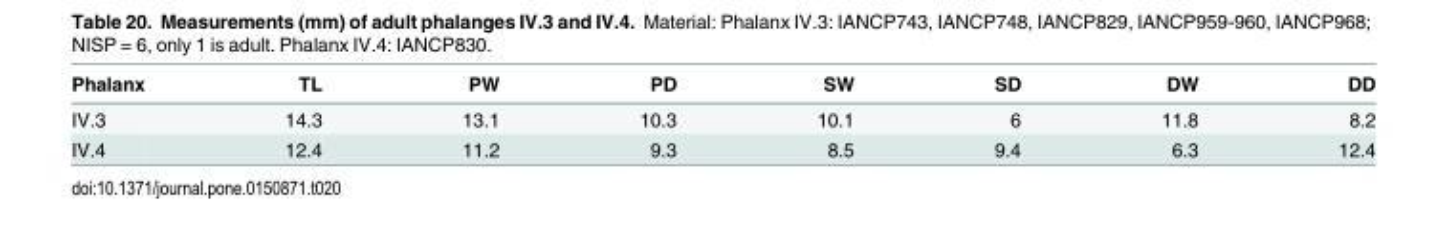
<table><thead><tr><td>Phalanx</td><td>TL</td><td>PW</td><td>PD</td><td>SW</td><td>SD</td><td>DW</td><td>DD</td></tr></thead><tbody><tr><td>IV.3</td><td>14.3</td><td>13.1</td><td>10.3</td><td>10.1</td><td>6</td><td>11.8</td><td>8.2</td></tr><tr><td>IV.4</td><td>12.4</td><td>11.2</td><td>9.3</td><td>8.5</td><td>9.4</td><td>6.3</td><td>12.4</td></tr></tbody></table>